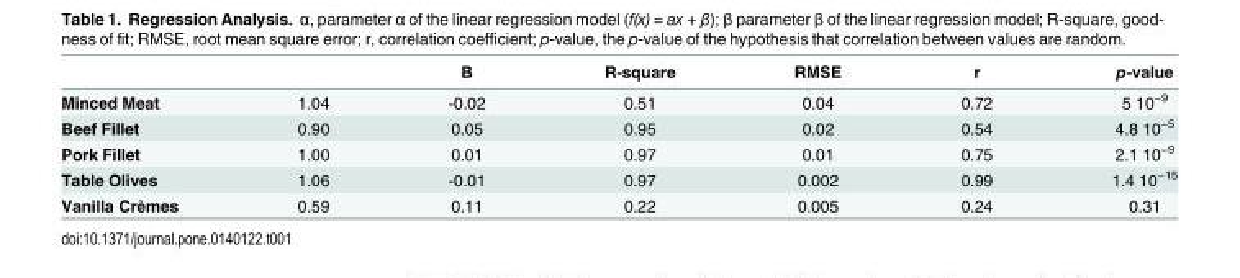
<table><thead><tr><td></td><td>Α</td><td>Β</td><td>R-square</td><td>RMSE</td><td>r</td><td>p-value</td></tr></thead><tbody><tr><td>Minced Meat</td><td>1.04</td><td>-0.02</td><td>0.51</td><td>0.04</td><td>0.72</td><td>5 10<sup>−9</sup></td></tr><tr><td>Beef Fillet</td><td>0.90</td><td>0.05</td><td>0.95</td><td>0.02</td><td>0.54</td><td>4.8 10<sup>−5</sup></td></tr><tr><td>Pork Fillet</td><td>1.00</td><td>0.01</td><td>0.97</td><td>0.01</td><td>0.75</td><td>2.1 10<sup>−9</sup></td></tr><tr><td>Table Olives</td><td>1.06</td><td>-0.01</td><td>0.97</td><td>0.002</td><td>0.99</td><td>1.4 10<sup>−15</sup></td></tr><tr><td>Vanilla Crèmes</td><td>0.59</td><td>0.11</td><td>0.22</td><td>0.005</td><td>0.24</td><td>0.31</td></tr></tbody></table>